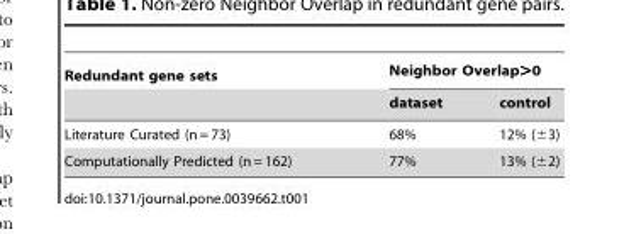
<table><thead><tr><td rowspan="2">Redundant gene sets</td><td colspan="2">Neighbor Overlap&gt;0</td></tr><tr><td>dataset</td><td>control</td></tr></thead><tbody><tr><td>Literature Curated (n = 73)</td><td>68%</td><td>12% (±3)</td></tr><tr><td>Computationally Predicted (n = 162)</td><td>77%</td><td>13% (±2)</td></tr></tbody></table>